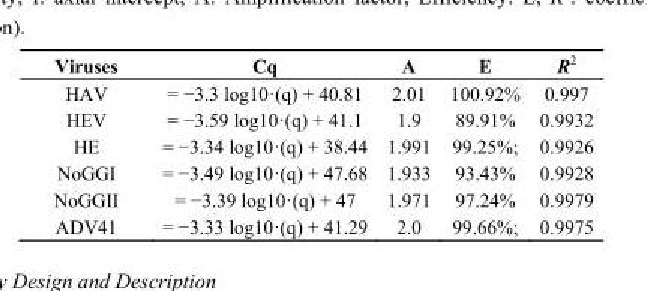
<table><thead><tr><td>Viruses</td><td>Cq</td><td>A</td><td>E</td><td>R<sup>2</sup></td></tr></thead><tbody><tr><td>HAV</td><td>= −3.3 log10·(q) + 40.81</td><td>2.01</td><td>100.92%</td><td>0.997</td></tr><tr><td>HEV</td><td>= −3.59 log10·(q) + 41.1</td><td>1.9</td><td>89.91%</td><td>0.9932</td></tr><tr><td>HE</td><td>= −3.34 log10·(q) + 38.44</td><td>1.991</td><td>99.25%;</td><td>0.9926</td></tr><tr><td>NoGGI</td><td>= −3.49 log10·(q) + 47.68</td><td>1.933</td><td>93.43%</td><td>0.9928</td></tr><tr><td>NoGGII</td><td>= −3.39 log10·(q) + 47</td><td>1.971</td><td>97.24%</td><td>0.9979</td></tr><tr><td>ADV41</td><td>= −3.33 log10·(q) + 41.29</td><td>2.0</td><td>99.66%;</td><td>0.9975</td></tr></tbody></table>